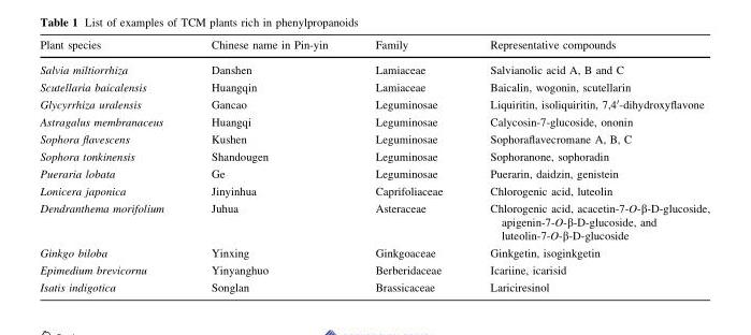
<table><thead><tr><td>Plant species</td><td>Chinese name in Pin-yin</td><td>Family</td><td>Representative compounds</td></tr></thead><tbody><tr><td>Salvia miltiorrhiza</td><td>Danshen</td><td>Lamiaceae</td><td>Salvianolic acid A, B and C</td></tr><tr><td>Scutellaria baicalensis</td><td>Huangqin</td><td>Lamiaceae</td><td>Baicalin, wogonin, scutellarin</td></tr><tr><td>Glycyrrhiza uralensis</td><td>Gancao</td><td>Leguminosae</td><td>Liquiritin, isoliquiritin, 7,4′-dihydroxyflavone</td></tr><tr><td>Astragalus membranaceus</td><td>Huangqi</td><td>Leguminosae</td><td>Calycosin-7-glucoside, ononin</td></tr><tr><td>Sophora flavescens</td><td>Kushen</td><td>Leguminosae</td><td>Sophoraflavecromane A, B, C</td></tr><tr><td>Sophora tonkinensis</td><td>Shandougen</td><td>Leguminosae</td><td>Sophoranone, sophoradin</td></tr><tr><td>Pueraria lobata</td><td>Ge</td><td>Leguminosae</td><td>Puerarin, daidzin, genistein</td></tr><tr><td>Lonicera japonica</td><td>Jinyinhua</td><td>Caprifoliaceae</td><td>Chlorogenic acid, luteolin</td></tr><tr><td>Dendranthema morifolium</td><td>Juhua</td><td>Asteraceae</td><td>Chlorogenic acid, acacetin-7-O-β-D-glucoside, apigenin-7-O-β-D-glucoside, and luteolin-7-O-β-D-glucoside</td></tr><tr><td>Ginkgo biloba</td><td>Yinxing</td><td>Ginkgoaceae</td><td>Ginkgetin, isoginkgetin</td></tr><tr><td>Epimedium brevicornu</td><td>Yinyanghuo</td><td>Berberidaceae</td><td>Icariine, icarisid</td></tr><tr><td>Isatis indigotica</td><td>Songlan</td><td>Brassicaceae</td><td>Lariciresinol</td></tr></tbody></table>